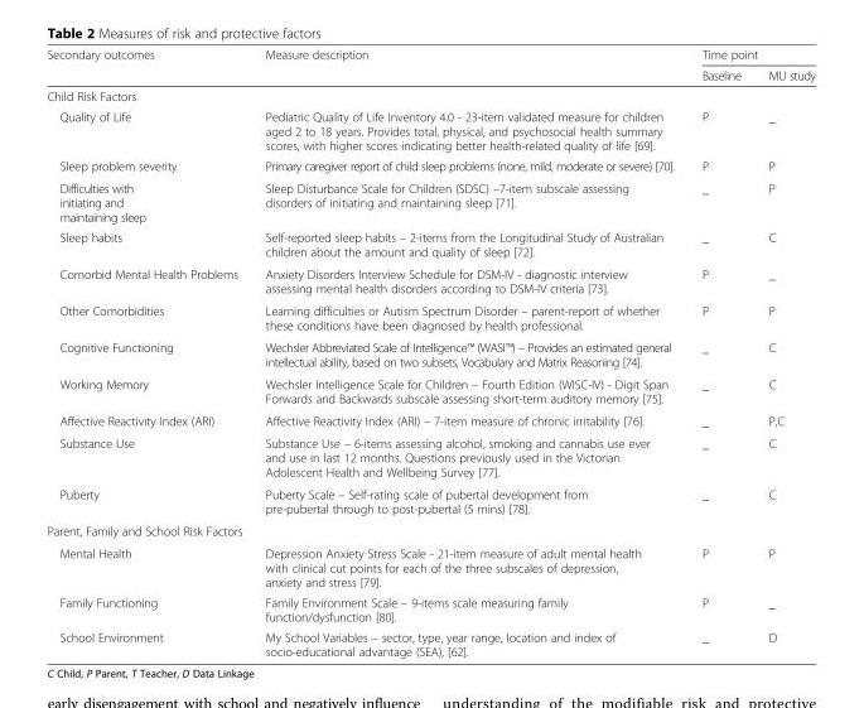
<table><thead><tr><td rowspan="2">Secondary outcomes</td><td rowspan="2">Measure description</td><td colspan="2">Time point</td></tr><tr><td>Baseline</td><td>MU study</td></tr></thead><tbody><tr><td colspan="4">Child Risk Factors</td></tr><tr><td>Quality of Life</td><td>Pediatric Quality of Life Inventory 4.0 - 23-item validated measure for children aged 2 to 18 years. Provides total, physical, and psychosocial health summary scores, with higher scores indicating better health-related quality of life [69].</td><td>P</td><td>_</td></tr><tr><td>Sleep problem severity</td><td>Primary caregiver report of child sleep problems (none, mild, moderate or severe) [70].</td><td>P</td><td>P</td></tr><tr><td>Difficulties with initiating and maintaining sleep</td><td>Sleep Disturbance Scale for Children (SDSC) –7-item subscale assessing disorders of initiating and maintaining sleep [71].</td><td>_</td><td>P</td></tr><tr><td>Sleep habits</td><td>Self-reported sleep habits – 2-items from the Longitudinal Study of Australian children about the amount and quality of sleep [72].</td><td>_</td><td>C</td></tr><tr><td>Comorbid Mental Health Problems</td><td>Anxiety Disorders Interview Schedule for DSM-IV - diagnostic interview assessing mental health disorders according to DSM-IV criteria [73].</td><td>P</td><td>_</td></tr><tr><td>Other Comorbidities</td><td>Learning difficulties or Autism Spectrum Disorder – parent-report of whether these conditions have been diagnosed by health professional.</td><td>P</td><td>P</td></tr><tr><td>Cognitive Functioning</td><td>Wechsler Abbreviated Scale of Intelligence™ (WASI™) – Provides an estimated general intellectual ability, based on two subsets, Vocabulary and Matrix Reasoning [74].</td><td>_</td><td>C</td></tr><tr><td>Working Memory</td><td>Wechsler Intelligence Scale for Children – Fourth Edition (WISC-IV) - Digit Span Forwards and Backwards subscale assessing short-term auditory memory [75].</td><td>_</td><td>C</td></tr><tr><td>Affective Reactivity Index (ARI)</td><td>Affective Reactivity Index (ARI) – 7-item measure of chronic irritability [76].</td><td>_</td><td>P,C</td></tr><tr><td>Substance Use</td><td>Substance Use – 6-items assessing alcohol, smoking and cannabis use ever and use in last 12 months. Questions previously used in the Victorian Adolescent Health and Wellbeing Survey [77].</td><td>_</td><td>C</td></tr><tr><td>Puberty</td><td>Puberty Scale – Self-rating scale of pubertal development from pre-pubertal through to post-pubertal (5 mins) [78].</td><td>_</td><td>C</td></tr><tr><td colspan="4">Parent, Family and School Risk Factors</td></tr><tr><td>Mental Health</td><td>Depression Anxiety Stress Scale - 21-item measure of adult mental health with clinical cut points for each of the three subscales of depression, anxiety and stress [79].</td><td>P</td><td>P</td></tr><tr><td>Family Functioning</td><td>Family Environment Scale – 9-items scale measuring family function/dysfunction [80].</td><td>P</td><td>_</td></tr><tr><td>School Environment</td><td>My School Variables – sector, type, year range, location and index of socio-educational advantage (SEA), [62].</td><td>_</td><td>D</td></tr></tbody></table>